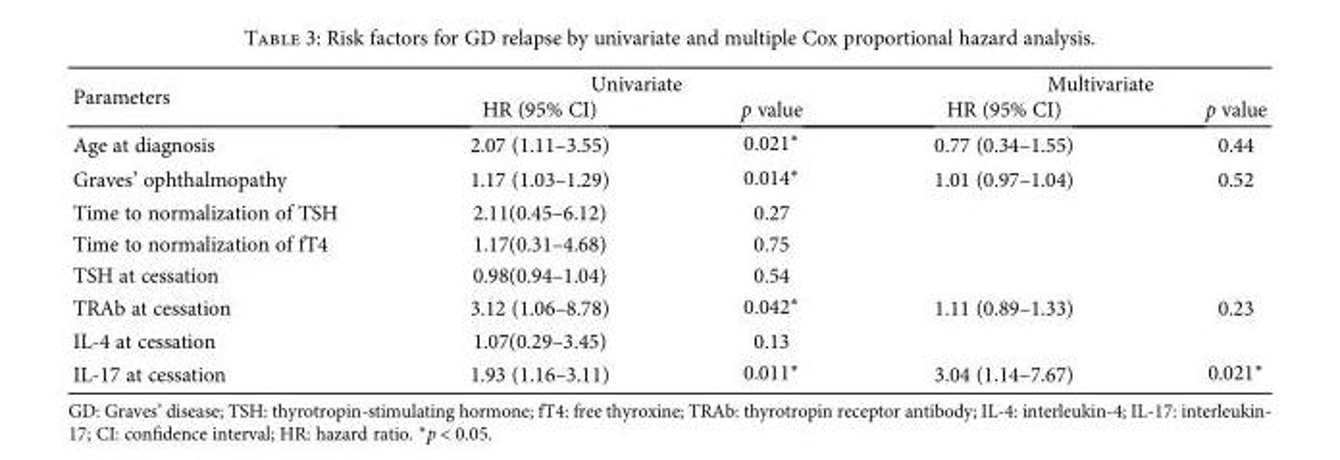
<table><thead><tr><td rowspan="2">Parameters</td><td colspan="2">Univariate</td><td colspan="2">Multivariate</td></tr><tr><td>HR (95% CI)</td><td>p value</td><td>HR (95% CI)</td><td>p value</td></tr></thead><tbody><tr><td>Age at diagnosis</td><td>2.07 (1.11–3.55)</td><td>0.021∗</td><td>0.77 (0.34–1.55)</td><td>0.44</td></tr><tr><td>Graves’ ophthalmopathy</td><td>1.17 (1.03–1.29)</td><td>0.014∗</td><td>1.01 (0.97–1.04)</td><td>0.52</td></tr><tr><td>Time to normalization of TSH</td><td>2.11(0.45–6.12)</td><td>0.27</td><td></td><td></td></tr><tr><td>Time to normalization of fT4</td><td>1.17(0.31–4.68)</td><td>0.75</td><td></td><td></td></tr><tr><td>TSH at cessation</td><td>0.98(0.94–1.04)</td><td>0.54</td><td></td><td></td></tr><tr><td>TRAb at cessation</td><td>3.12 (1.06–8.78)</td><td>0.042∗</td><td>1.11 (0.89–1.33)</td><td>0.23</td></tr><tr><td>IL-4 at cessation</td><td>1.07(0.29–3.45)</td><td>0.13</td><td></td><td></td></tr><tr><td>IL-17 at cessation</td><td>1.93 (1.16–3.11)</td><td>0.011∗</td><td>3.04 (1.14–7.67)</td><td>0.021∗</td></tr></tbody></table>